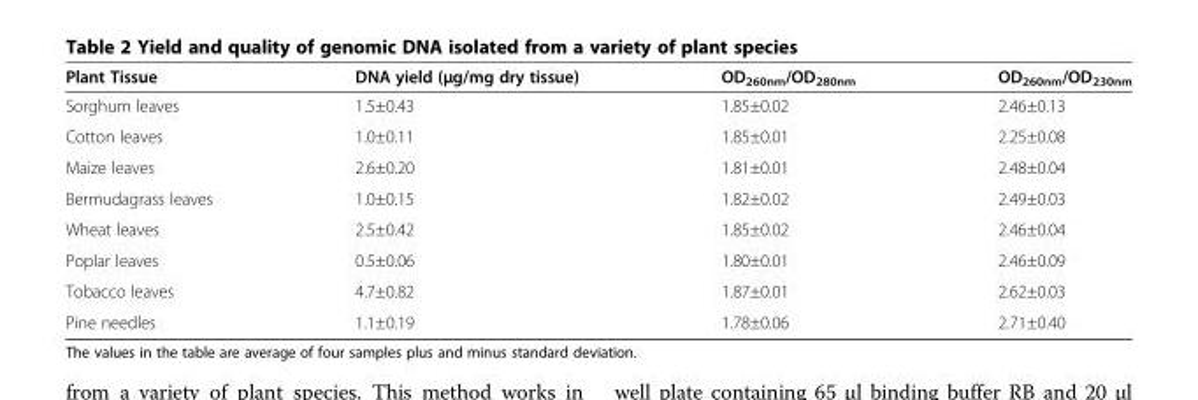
<table><thead><tr><td>Plant Tissue</td><td>DNA yield (μg/mg dry tissue)</td><td>OD<sub>260nm</sub>/OD<sub>280nm</sub></td><td>OD<sub>260nm</sub>/OD<sub>230nm</sub></td></tr></thead><tbody><tr><td>Sorghum leaves</td><td>1.5±0.43</td><td>1.85±0.02</td><td>2.46±0.13</td></tr><tr><td>Cotton leaves</td><td>1.0±0.11</td><td>1.85±0.01</td><td>2.25±0.08</td></tr><tr><td>Maize leaves</td><td>2.6±0.20</td><td>1.81±0.01</td><td>2.48±0.04</td></tr><tr><td>Bermudagrass leaves</td><td>1.0±0.15</td><td>1.82±0.02</td><td>2.49±0.03</td></tr><tr><td>Wheat leaves</td><td>2.5±0.42</td><td>1.85±0.02</td><td>2.46±0.04</td></tr><tr><td>Poplar leaves</td><td>0.5±0.06</td><td>1.80±0.01</td><td>2.46±0.09</td></tr><tr><td>Tobacco leaves</td><td>4.7±0.82</td><td>1.87±0.01</td><td>2.62±0.03</td></tr><tr><td>Pine needles</td><td>1.1±0.19</td><td>1.78±0.06</td><td>2.71±0.40</td></tr></tbody></table>